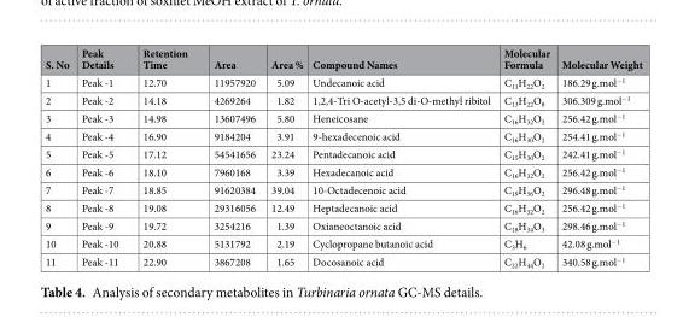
<table><thead><tr><td>S. No</td><td>Peak Details</td><td>Retention Time</td><td>Area</td><td>Area %</td><td>Compound Names</td><td>Molecular Formula</td><td>Molecular Weight</td></tr></thead><tbody><tr><td>1</td><td>Peak -1</td><td>12.70</td><td>11957920</td><td>5.09</td><td>Undecanoic acid</td><td>C<sub>11</sub>H<sub>22</sub>O<sub>2</sub></td><td>186.29 g.mol<sup>−1</sup></td></tr><tr><td>2</td><td>Peak -2</td><td>14.18</td><td>4269264</td><td>1.82</td><td>1,2,4-Tri O-acetyl-3,5 di-O-methyl ribitol</td><td>C<sub>13</sub>H<sub>22</sub>O<sub>8</sub></td><td>306.309 g.mol<sup>−1</sup></td></tr><tr><td>3</td><td>Peak -3</td><td>14.98</td><td>13607496</td><td>5.80</td><td>Heneicosane</td><td>C<sub>16</sub>H<sub>32</sub>O<sub>2</sub></td><td>256.42 g.mol<sup>−1</sup></td></tr><tr><td>4</td><td>Peak -4</td><td>16.90</td><td>9184204</td><td>3.91</td><td>9-hexadecenoic acid</td><td>C<sub>16</sub>H<sub>30</sub>O<sub>2</sub></td><td>254.41 g.mol<sup>−1</sup></td></tr><tr><td>5</td><td>Peak -5</td><td>17.12</td><td>54541656</td><td>23.24</td><td>Pentadecanoic acid</td><td>C<sub>15</sub>H<sub>30</sub>O<sub>2</sub></td><td>242.41 g.mol<sup>−1</sup></td></tr><tr><td>6</td><td>Peak -6</td><td>18.10</td><td>7960168</td><td>3.39</td><td>Hexadecanoic acid</td><td>C<sub>16</sub>H<sub>32</sub>O<sub>2</sub></td><td>256.42 g.mol<sup>−1</sup></td></tr><tr><td>7</td><td>Peak -7</td><td>18.85</td><td>91620384</td><td>39.04</td><td>10-Octadecenoic acid</td><td>C<sub>19</sub>H<sub>36</sub>O<sub>2</sub></td><td>296.48 g.mol<sup>−1</sup></td></tr><tr><td>8</td><td>Peak -8</td><td>19.08</td><td>29316056</td><td>12.49</td><td>Heptadecanoic acid</td><td>C<sub>16</sub>H<sub>32</sub>O<sub>2</sub></td><td>256.42 g.mol<sup>−1</sup></td></tr><tr><td>9</td><td>Peak -9</td><td>19.72</td><td>3254216</td><td>1.39</td><td>Oxianeoctanoic acid</td><td>C<sub>18</sub>H<sub>34</sub>O<sub>3</sub></td><td>298.46 g.mol<sup>−1</sup></td></tr><tr><td>10</td><td>Peak -10</td><td>20.88</td><td>5131792</td><td>2.19</td><td>Cyclopropane butanoic acid</td><td>C<sub>3</sub>H<sub>6</sub></td><td>42.08 g.mol<sup>−1</sup></td></tr><tr><td>11</td><td>Peak -11</td><td>22.90</td><td>3867208</td><td>1.65</td><td>Docosanoic acid</td><td>C<sub>22</sub>H<sub>44</sub>O<sub>2</sub></td><td>340.58 g.mol<sup>−1</sup></td></tr></tbody></table>